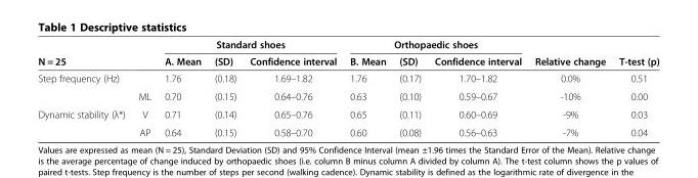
<table><thead><tr><td rowspan="2">N = 25</td><td rowspan="2"></td><td colspan="3">Standard shoes</td><td colspan="3">Orthopaedic shoes</td><td rowspan="2">Relative change</td><td rowspan="2">T-test (p)</td></tr><tr><td>A. Mean</td><td>(SD)</td><td>Confidence interval</td><td>B. Mean</td><td>(SD)</td><td>Confidence interval</td></tr></thead><tbody><tr><td rowspan="2">Step frequency (Hz)</td><td></td><td>1.76</td><td>(0.18)</td><td>1.69–1.82</td><td>1.76</td><td>(0.17)</td><td>1.70–1.82</td><td>0.0%</td><td>0.51</td></tr><tr><td>ML</td><td>0.70</td><td>(0.15)</td><td>0.64–0.76</td><td>0.63</td><td>(0.10)</td><td>0.59–0.67</td><td>-10%</td><td>0.00</td></tr><tr><td rowspan="2">Dynamic stability (λ*)</td><td>V</td><td>0.71</td><td>(0.14)</td><td>0.65–0.76</td><td>0.65</td><td>(0.11)</td><td>0.60–0.69</td><td>-9%</td><td>0.03</td></tr><tr><td>AP</td><td>0.64</td><td>(0.15)</td><td>0.58–0.70</td><td>0.60</td><td>(0.08)</td><td>0.56–0.63</td><td>-7%</td><td>0.04</td></tr></tbody></table>